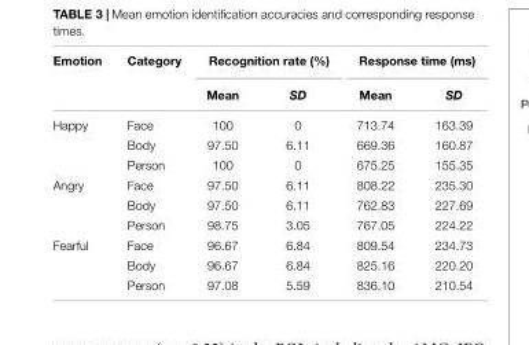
<table><thead><tr><td rowspan="2">Emotion</td><td rowspan="2">Category</td><td colspan="2">Recognition rate (%)</td><td colspan="2">Response time (ms)</td></tr><tr><td>Mean</td><td>SD</td><td>Mean</td><td>SD</td></tr></thead><tbody><tr><td rowspan="3">Happy</td><td>Face</td><td>100</td><td>0</td><td>713.74</td><td>163.39</td></tr><tr><td>Body</td><td>97.50</td><td>6.11</td><td>669.36</td><td>160.87</td></tr><tr><td>Person</td><td>100</td><td>0</td><td>675.25</td><td>155.35</td></tr><tr><td rowspan="3">Angry</td><td>Face</td><td>97.50</td><td>6.11</td><td>808.22</td><td>235.30</td></tr><tr><td>Body</td><td>97.50</td><td>6.11</td><td>762.83</td><td>227.69</td></tr><tr><td>Person</td><td>98.75</td><td>3.05</td><td>767.05</td><td>224.22</td></tr><tr><td rowspan="3">Fearful</td><td>Face</td><td>96.67</td><td>6.84</td><td>809.54</td><td>234.73</td></tr><tr><td>Body</td><td>96.67</td><td>6.84</td><td>825.16</td><td>220.20</td></tr><tr><td>Person</td><td>97.08</td><td>5.59</td><td>836.10</td><td>210.54</td></tr></tbody></table>